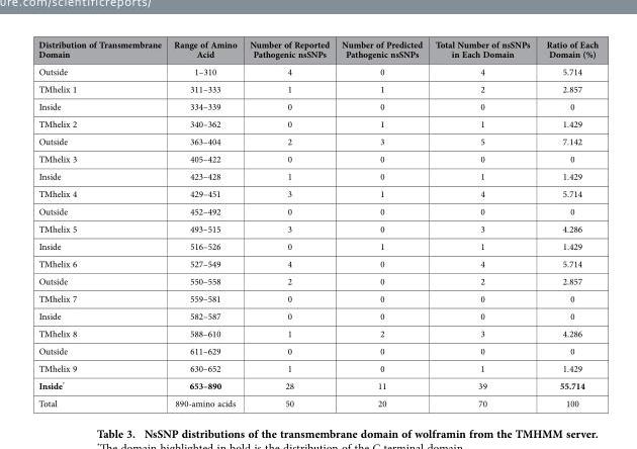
<table><thead><tr><td>Distribution of Transmembrane Domain</td><td>Range of Amino Acid</td><td>Number of Reported Pathogenic nsSNPs</td><td>Number of Predicted Pathogenic nsSNPs</td><td>Total Number of nsSNPs in Each Domain</td><td>Ratio of Each Domain (%)</td></tr></thead><tbody><tr><td>Outside</td><td>1–310</td><td>4</td><td>0</td><td>4</td><td>5.714</td></tr><tr><td>TMhelix 1</td><td>311–333</td><td>1</td><td>1</td><td>2</td><td>2.857</td></tr><tr><td>Inside</td><td>334–339</td><td>0</td><td>0</td><td>0</td><td>0</td></tr><tr><td>TMhelix 2</td><td>340–362</td><td>0</td><td>1</td><td>1</td><td>1.429</td></tr><tr><td>Outside</td><td>363–404</td><td>2</td><td>3</td><td>5</td><td>7.142</td></tr><tr><td>TMhelix 3</td><td>405–422</td><td>0</td><td>0</td><td>0</td><td>0</td></tr><tr><td>Inside</td><td>423–428</td><td>1</td><td>0</td><td>1</td><td>1.429</td></tr><tr><td>TMhelix 4</td><td>429–451</td><td>3</td><td>1</td><td>4</td><td>5.714</td></tr><tr><td>Outside</td><td>452–492</td><td>0</td><td>0</td><td>0</td><td>0</td></tr><tr><td>TMhelix 5</td><td>493–515</td><td>3</td><td>0</td><td>3</td><td>4.286</td></tr><tr><td>Inside</td><td>516–526</td><td>0</td><td>1</td><td>1</td><td>1.429</td></tr><tr><td>TMhelix 6</td><td>527–549</td><td>4</td><td>0</td><td>4</td><td>5.714</td></tr><tr><td>Outside</td><td>550–558</td><td>2</td><td>0</td><td>2</td><td>2.857</td></tr><tr><td>TMhelix 7</td><td>559–581</td><td>0</td><td>0</td><td>0</td><td>0</td></tr><tr><td>Inside</td><td>582–587</td><td>0</td><td>0</td><td>0</td><td>0</td></tr><tr><td>TMhelix 8</td><td>588–610</td><td>1</td><td>2</td><td>3</td><td>4.286</td></tr><tr><td>Outside</td><td>611–629</td><td>0</td><td>0</td><td>0</td><td>0</td></tr><tr><td>TMhelix 9</td><td>630–652</td><td>1</td><td>0</td><td>1</td><td>1.429</td></tr><tr><td>Inside*</td><td>653–890</td><td>28</td><td>11</td><td>39</td><td>55.714</td></tr><tr><td>Total</td><td>890-amino acids</td><td>50</td><td>20</td><td>70</td><td>100</td></tr></tbody></table>